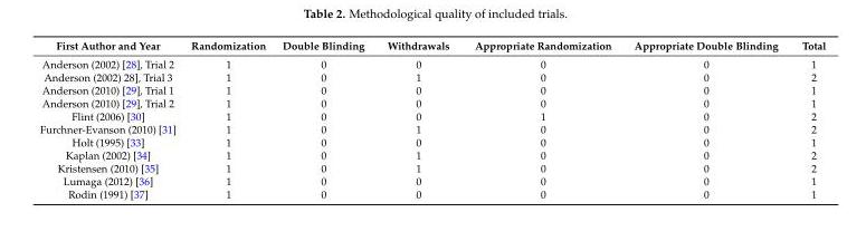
<table><thead><tr><td>First Author and Year</td><td>Randomization</td><td>Double Blinding</td><td>Withdrawals</td><td>Appropriate Randomization</td><td>Appropriate Double Blinding</td><td>Total</td></tr></thead><tbody><tr><td>Anderson (2002) [28], Trial 2</td><td>1</td><td>0</td><td>0</td><td>0</td><td>0</td><td>1</td></tr><tr><td>Anderson (2002) 28], Trial 3</td><td>1</td><td>0</td><td>1</td><td>0</td><td>0</td><td>2</td></tr><tr><td>Anderson (2010) [29], Trial 1</td><td>1</td><td>0</td><td>0</td><td>0</td><td>0</td><td>1</td></tr><tr><td>Anderson (2010) [29], Trial 2</td><td>1</td><td>0</td><td>0</td><td>0</td><td>0</td><td>1</td></tr><tr><td>Flint (2006) [30]</td><td>1</td><td>0</td><td>0</td><td>1</td><td>0</td><td>2</td></tr><tr><td>Furchner-Evanson (2010) [31]</td><td>1</td><td>0</td><td>1</td><td>0</td><td>0</td><td>2</td></tr><tr><td>Holt (1995) [33]</td><td>1</td><td>0</td><td>0</td><td>0</td><td>0</td><td>1</td></tr><tr><td>Kaplan (2002) [34]</td><td>1</td><td>0</td><td>1</td><td>0</td><td>0</td><td>2</td></tr><tr><td>Kristensen (2010) [35]</td><td>1</td><td>0</td><td>1</td><td>0</td><td>0</td><td>2</td></tr><tr><td>Lumaga (2012) [36]</td><td>1</td><td>0</td><td>0</td><td>0</td><td>0</td><td>1</td></tr><tr><td>Rodin (1991) [37]</td><td>1</td><td>0</td><td>0</td><td>0</td><td>0</td><td>1</td></tr></tbody></table>